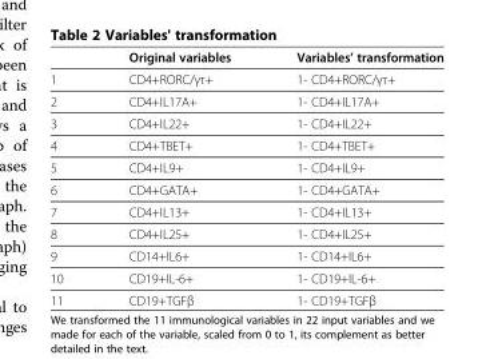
<table><thead><tr><td></td><td>Original variables</td><td>Variables’ transformation</td></tr></thead><tbody><tr><td>1</td><td>CD4+RORC/γτ+</td><td>1- CD4+RORC/γτ+</td></tr><tr><td>2</td><td>CD4+IL17A+</td><td>1- CD4+IL17A+</td></tr><tr><td>3</td><td>CD4+IL22+</td><td>1- CD4+IL22+</td></tr><tr><td>4</td><td>CD4+TBET+</td><td>1- CD4+TBET+</td></tr><tr><td>5</td><td>CD4+IL9+</td><td>1- CD4+IL9+</td></tr><tr><td>6</td><td>CD4+GATA+</td><td>1- CD4+GATA+</td></tr><tr><td>7</td><td>CD4+IL13+</td><td>1- CD4+IL13+</td></tr><tr><td>8</td><td>CD4+IL25+</td><td>1- CD4+IL25+</td></tr><tr><td>9</td><td>CD14+IL6+</td><td>1- CD14+IL6+</td></tr><tr><td>10</td><td>CD19+IL-6+</td><td>1- CD19+IL-6+</td></tr><tr><td>11</td><td>CD19+TGFβ</td><td>1- CD19+TGFβ</td></tr></tbody></table>